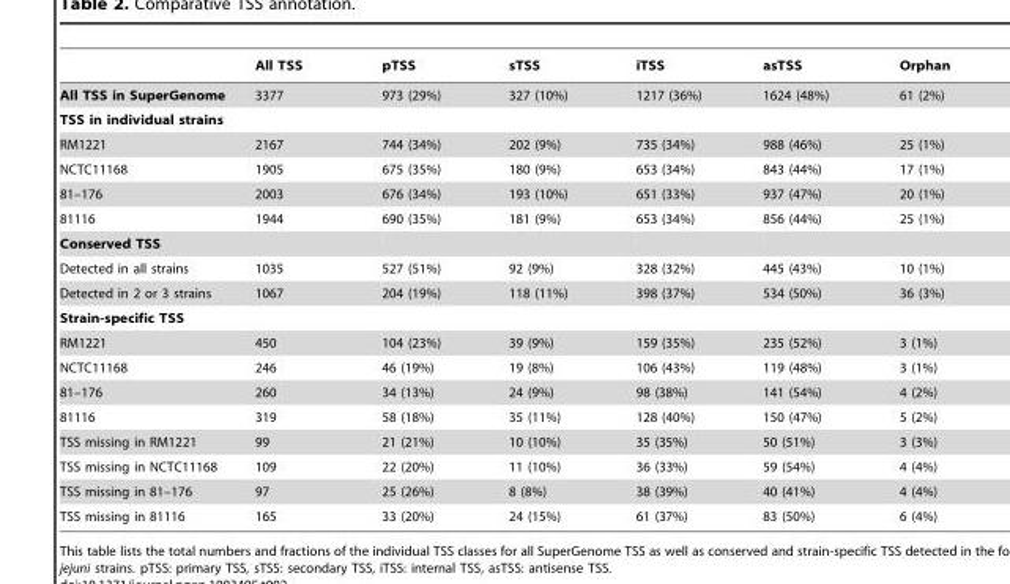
<table><thead><tr><td></td><td>All TSS</td><td>pTSS</td><td>sTSS</td><td>iTSS</td><td>asTSS</td><td>Orphan</td></tr></thead><tbody><tr><td>All TSS in SuperGenome</td><td>3377</td><td>973 (29%)</td><td>327 (10%)</td><td>1217 (36%)</td><td>1624 (48%)</td><td>61 (2%)</td></tr><tr><td colspan="7">TSS in individual strains</td></tr><tr><td>RM1221</td><td>2167</td><td>744 (34%)</td><td>202 (9%)</td><td>735 (34%)</td><td>988 (46%)</td><td>25 (1%)</td></tr><tr><td>NCTC11168</td><td>1905</td><td>675 (35%)</td><td>180 (9%)</td><td>653 (34%)</td><td>843 (44%)</td><td>17 (1%)</td></tr><tr><td>81–176</td><td>2003</td><td>676 (34%)</td><td>193 (10%)</td><td>651 (33%)</td><td>937 (47%)</td><td>20 (1%)</td></tr><tr><td>81116</td><td>1944</td><td>690 (35%)</td><td>181 (9%)</td><td>653 (34%)</td><td>856 (44%)</td><td>25 (1%)</td></tr><tr><td colspan="7">Conserved TSS</td></tr><tr><td>Detected in all strains</td><td>1035</td><td>527 (51%)</td><td>92 (9%)</td><td>328 (32%)</td><td>445 (43%)</td><td>10 (1%)</td></tr><tr><td>Detected in 2 or 3 strains</td><td>1067</td><td>204 (19%)</td><td>118 (11%)</td><td>398 (37%)</td><td>534 (50%)</td><td>36 (3%)</td></tr><tr><td colspan="7">Strain-specific TSS</td></tr><tr><td>RM1221</td><td>450</td><td>104 (23%)</td><td>39 (9%)</td><td>159 (35%)</td><td>235 (52%)</td><td>3 (1%)</td></tr><tr><td>NCTC11168</td><td>246</td><td>46 (19%)</td><td>19 (8%)</td><td>106 (43%)</td><td>119 (48%)</td><td>3 (1%)</td></tr><tr><td>81–176</td><td>260</td><td>34 (13%)</td><td>24 (9%)</td><td>98 (38%)</td><td>141 (54%)</td><td>4 (2%)</td></tr><tr><td>81116</td><td>319</td><td>58 (18%)</td><td>35 (11%)</td><td>128 (40%)</td><td>150 (47%)</td><td>5 (2%)</td></tr><tr><td>TSS missing in RM1221</td><td>99</td><td>21 (21%)</td><td>10 (10%)</td><td>35 (35%)</td><td>50 (51%)</td><td>3 (3%)</td></tr><tr><td>TSS missing in NCTC11168</td><td>109</td><td>22 (20%)</td><td>11 (10%)</td><td>36 (33%)</td><td>59 (54%)</td><td>4 (4%)</td></tr><tr><td>TSS missing in 81–176</td><td>97</td><td>25 (26%)</td><td>8 (8%)</td><td>38 (39%)</td><td>40 (41%)</td><td>4 (4%)</td></tr><tr><td>TSS missing in 81116</td><td>165</td><td>33 (20%)</td><td>24 (15%)</td><td>61 (37%)</td><td>83 (50%)</td><td>6 (4%)</td></tr></tbody></table>